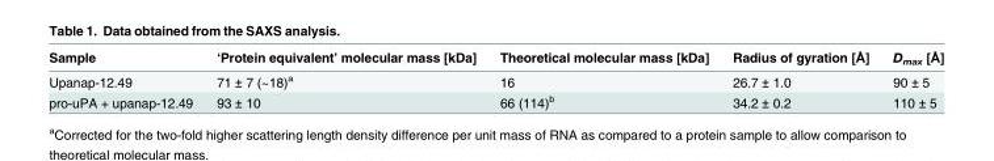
<table><thead><tr><td>Sample</td><td>‘Protein equivalent’ molecular mass [kDa]</td><td>Theoretical molecular mass [kDa]</td><td>Radius of gyration [Å]</td><td>D<sub>max</sub> [Å]</td></tr></thead><tbody><tr><td>Upanap-12.49</td><td>71 ± 7 (~18)<sup>a</sup></td><td>16</td><td>26.7 ± 1.0</td><td>90 ± 5</td></tr><tr><td>pro-uPA + upanap-12.49</td><td>93 ± 10</td><td>66 (114)<sup>b</sup></td><td>34.2 ± 0.2</td><td>110 ± 5</td></tr></tbody></table>